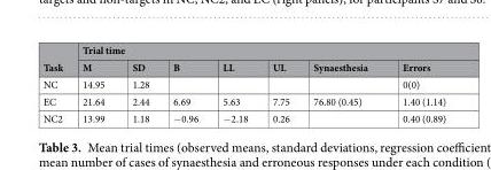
<table><thead><tr><td rowspan="2">Task</td><td colspan="7">Trial time</td></tr><tr><td>M</td><td>SD</td><td>B</td><td>LL</td><td>UL</td><td>Synaesthesia</td><td>Errors</td></tr></thead><tbody><tr><td>NC</td><td>14.95</td><td>1.28</td><td></td><td></td><td></td><td></td><td>0(0)</td></tr><tr><td>EC</td><td>21.64</td><td>2.44</td><td>6.69</td><td>5.63</td><td>7.75</td><td>76.80 (0.45)</td><td>1.40 (1.14)</td></tr><tr><td>NC2</td><td>13.99</td><td>1.18</td><td>−0.96</td><td>−2.18</td><td>0.26</td><td></td><td>0.40 (0.89)</td></tr></tbody></table>